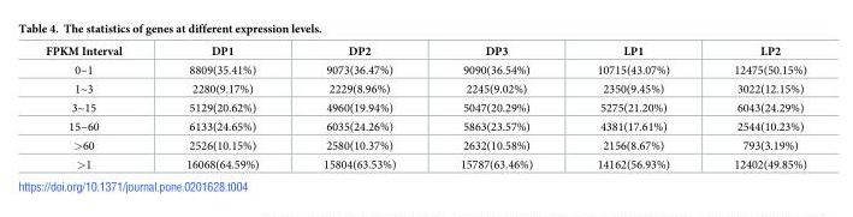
<table><thead><tr><td>FPKM Interval</td><td>DP1</td><td>DP2</td><td>DP3</td><td>LP1</td><td>LP2</td></tr></thead><tbody><tr><td>0~1</td><td>8809(35.41%)</td><td>9073(36.47%)</td><td>9090(36.54%)</td><td>10715(43.07%)</td><td>12475(50.15%)</td></tr><tr><td>1~3</td><td>2280(9.17%)</td><td>2229(8.96%)</td><td>2245(9.02%)</td><td>2350(9.45%)</td><td>3022(12.15%)</td></tr><tr><td>3~15</td><td>5129(20.62%)</td><td>4960(19.94%)</td><td>5047(20.29%)</td><td>5275(21.20%)</td><td>6043(24.29%)</td></tr><tr><td>15~60</td><td>6133(24.65%)</td><td>6035(24.26%)</td><td>5863(23.57%)</td><td>4381(17.61%)</td><td>2544(10.23%)</td></tr><tr><td>&gt;60</td><td>2526(10.15%)</td><td>2580(10.37%)</td><td>2632(10.58%)</td><td>2156(8.67%)</td><td>793(3.19%)</td></tr><tr><td>&gt;1</td><td>16068(64.59%)</td><td>15804(63.53%)</td><td>15787(63.46%)</td><td>14162(56.93%)</td><td>12402(49.85%)</td></tr></tbody></table>